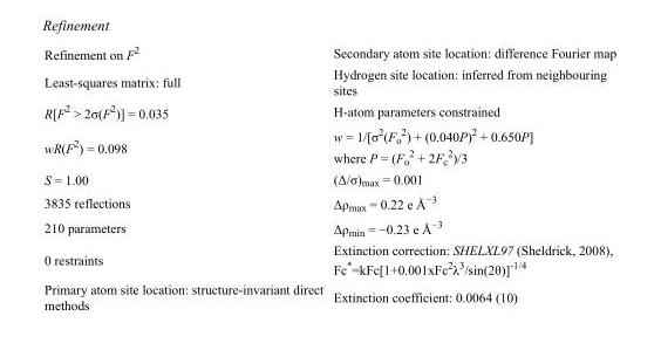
<table><tbody><tr><td>Refinement on F<sup>2</sup></td><td>Secondary atom site location: difference Fourier map</td></tr><tr><td>Least-squares matrix: full</td><td>Hydrogen site location: inferred from neighbouring sites</td></tr><tr><td>R[F<sup>2</sup> &gt; 2σ(F<sup>2</sup>)] = 0.035</td><td>H-atom parameters constrained</td></tr><tr><td>wR(F<sup>2</sup>) = 0.098</td><td>w = 1/[σ<sup>2</sup>(F<sub>o</sub> <sup>2</sup>) + (0.040P)<sup>2</sup> + 0.650P] where P = (F<sub>o</sub> <sup>2</sup> + 2F<sub>c</sub> <sup>2</sup>)/3</td></tr><tr><td>S = 1.00</td><td>(Δ/σ)<sub>max</sub> = 0.001</td></tr><tr><td>3835 reflections</td><td>Δρ<sub>max</sub> = 0.22 e Å<sup>−3</sup></td></tr><tr><td>210 parameters</td><td>Δρ<sub>min</sub> = −0.23 e Å<sup>−3</sup></td></tr><tr><td>0 restraints</td><td>Extinction correction: SHELXL97 (Sheldrick, 2008), Fc*=kFc[1+0.001xFc<sup>2</sup>λ<sup>3</sup>/sin(2θ)]<sup>-1/4</sup></td></tr><tr><td>Primary atom site location: structure-invariant direct methods</td><td>Extinction coefficient: 0.0064 (10)</td></tr></tbody></table>